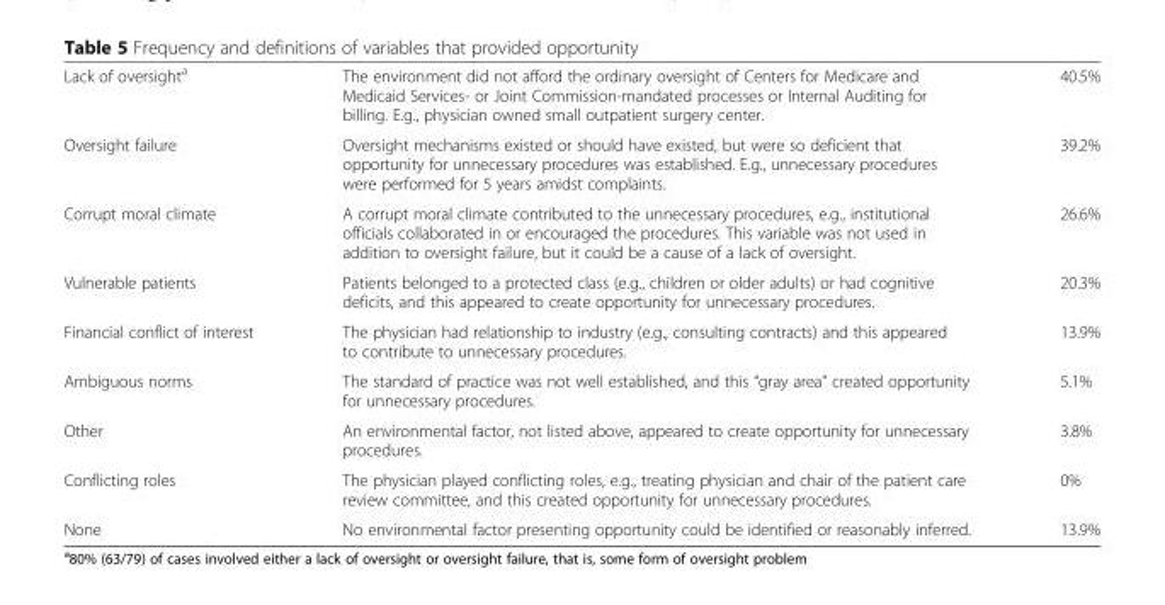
<table><tbody><tr><td>Lack of oversight<sup>a</sup></td><td>The environment did not afford the ordinary oversight of Centers for Medicare and Medicaid Services- or Joint Commission-mandated processes or Internal Auditing for billing. E.g., physician owned small outpatient surgery center.</td><td>40.5%</td></tr><tr><td>Oversight failure</td><td>Oversight mechanisms existed or should have existed, but were so deficient that opportunity for unnecessary procedures was established. E.g., unnecessary procedures were performed for 5 years amidst complaints.</td><td>39.2%</td></tr><tr><td>Corrupt moral climate</td><td>A corrupt moral climate contributed to the unnecessary procedures, e.g., institutional officials collaborated in or encouraged the procedures. This variable was not used in addition to oversight failure, but it could be a cause of a lack of oversight.</td><td>26.6%</td></tr><tr><td>Vulnerable patients</td><td>Patients belonged to a protected class (e.g., children or older adults) or had cognitive deficits, and this appeared to create opportunity for unnecessary procedures.</td><td>20.3%</td></tr><tr><td>Financial conflict of interest</td><td>The physician had relationship to industry (e.g., consulting contracts) and this appeared to contribute to unnecessary procedures.</td><td>13.9%</td></tr><tr><td>Ambiguous norms</td><td>The standard of practice was not well established, and this “gray area” created opportunity for unnecessary procedures.</td><td>5.1%</td></tr><tr><td>Other</td><td>An environmental factor, not listed above, appeared to create opportunity for unnecessary procedures.</td><td>3.8%</td></tr><tr><td>Conflicting roles</td><td>The physician played conflicting roles, e.g., treating physician and chair of the patient care review committee, and this created opportunity for unnecessary procedures.</td><td>0%</td></tr><tr><td>None</td><td>No environmental factor presenting opportunity could be identified or reasonably inferred.</td><td>13.9%</td></tr></tbody></table>